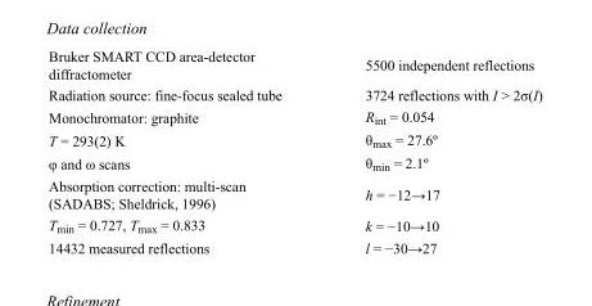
<table><tbody><tr><td>Bruker SMART CCD area-detector diffractometer</td><td>5500 independent reflections</td></tr><tr><td>Radiation source: fine-focus sealed tube</td><td>3724 reflections with I &gt; 2σ(I)</td></tr><tr><td>Monochromator: graphite</td><td>R<sub>int</sub> = 0.054</td></tr><tr><td>T = 293(2) K</td><td>θ<sub>max</sub> = 27.6º</td></tr><tr><td>φ and ω scans</td><td>θ<sub>min</sub> = 2.1º</td></tr><tr><td>Absorption correction: multi-scan (SADABS; Sheldrick, 1996)</td><td>h = −12→17</td></tr><tr><td>T<sub>min</sub> = 0.727, T<sub>max</sub> = 0.833</td><td>k = −10→10</td></tr><tr><td>14432 measured reflections</td><td>l = −30→27</td></tr></tbody></table>